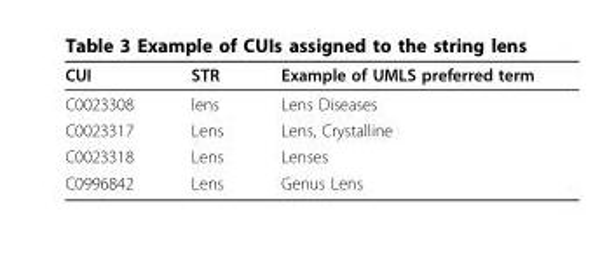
<table><thead><tr><td>CUI</td><td>STR</td><td>Example of UMLS preferred term</td></tr></thead><tbody><tr><td>C0023308</td><td>lens</td><td>Lens Diseases</td></tr><tr><td>C0023317</td><td>Lens</td><td>Lens, Crystalline</td></tr><tr><td>C0023318</td><td>Lens</td><td>Lenses</td></tr><tr><td>C0996842</td><td>Lens</td><td>Genus Lens</td></tr></tbody></table>